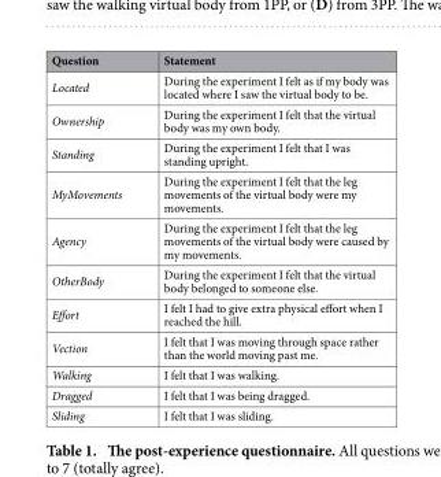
<table><thead><tr><td>Question</td><td>Statement</td></tr></thead><tbody><tr><td>Located</td><td>During the experiment I felt as if my body was located where I saw the virtual body to be.</td></tr><tr><td>Ownership</td><td>During the experiment I felt that the virtual body was my own body.</td></tr><tr><td>Standing</td><td>During the experiment I felt that I was standing upright.</td></tr><tr><td>MyMovements</td><td>During the experiment I felt that the leg movements of the virtual body were my movements.</td></tr><tr><td>Agency</td><td>During the experiment I felt that the leg movements of the virtual body were caused by my movements.</td></tr><tr><td>OtherBody</td><td>During the experiment I felt that the virtual body belonged to someone else.</td></tr><tr><td>Effort</td><td>I felt I had to give extra physical effort when I reached the hill.</td></tr><tr><td>Vection</td><td>I felt that I was moving through space rather than the world moving past me.</td></tr><tr><td>Walking</td><td>I felt that I was walking.</td></tr><tr><td>Dragged</td><td>I felt that I was being dragged.</td></tr><tr><td>Sliding</td><td>I felt that I was sliding.</td></tr></tbody></table>